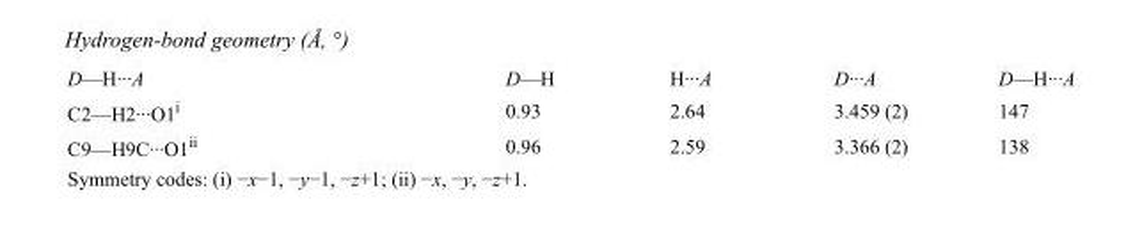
<table><tbody><tr><td>D—H···A</td><td>D—H</td><td>H···A</td><td>D···A</td><td>D—H···A</td></tr><tr><td>C2—H2···O1<sup>i</sup></td><td>0.93</td><td>2.64</td><td>3.459 (2)</td><td>147</td></tr><tr><td>C9—H9C···O1<sup>ii</sup></td><td>0.96</td><td>2.59</td><td>3.366 (2)</td><td>138</td></tr></tbody></table>